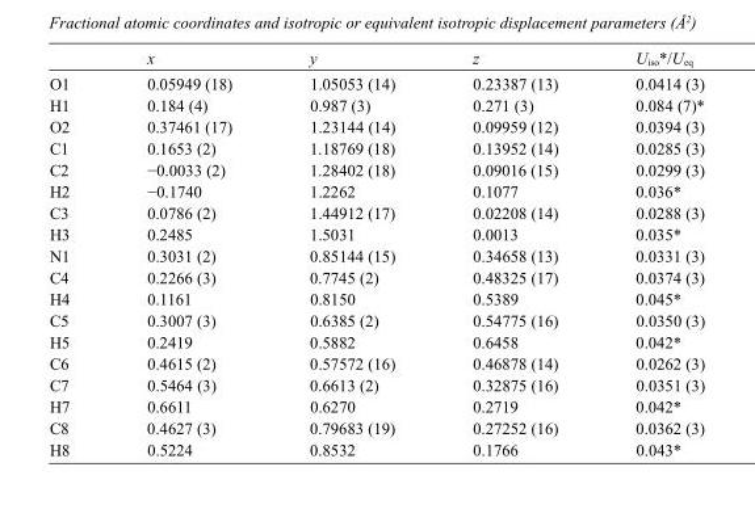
<table><thead><tr><td></td><td>x</td><td>y</td><td>z</td><td>U<sub>iso</sub>*/U<sub>eq</sub></td></tr></thead><tbody><tr><td>O1</td><td>0.05949 (18)</td><td>1.05053 (14)</td><td>0.23387 (13)</td><td>0.0414 (3)</td></tr><tr><td>H1</td><td>0.184 (4)</td><td>0.987 (3)</td><td>0.271 (3)</td><td>0.084 (7)*</td></tr><tr><td>O2</td><td>0.37461 (17)</td><td>1.23144 (14)</td><td>0.09959 (12)</td><td>0.0394 (3)</td></tr><tr><td>C1</td><td>0.1653 (2)</td><td>1.18769 (18)</td><td>0.13952 (14)</td><td>0.0285 (3)</td></tr><tr><td>C2</td><td>−0.0033 (2)</td><td>1.28402 (18)</td><td>0.09016 (15)</td><td>0.0299 (3)</td></tr><tr><td>H2</td><td>−0.1740</td><td>1.2262</td><td>0.1077</td><td>0.036*</td></tr><tr><td>C3</td><td>0.0786 (2)</td><td>1.44912 (17)</td><td>0.02208 (14)</td><td>0.0288 (3)</td></tr><tr><td>H3</td><td>0.2485</td><td>1.5031</td><td>0.0013</td><td>0.035*</td></tr><tr><td>N1</td><td>0.3031 (2)</td><td>0.85144 (15)</td><td>0.34658 (13)</td><td>0.0331 (3)</td></tr><tr><td>C4</td><td>0.2266 (3)</td><td>0.7745 (2)</td><td>0.48325 (17)</td><td>0.0374 (3)</td></tr><tr><td>H4</td><td>0.1161</td><td>0.8150</td><td>0.5389</td><td>0.045*</td></tr><tr><td>C5</td><td>0.3007 (3)</td><td>0.6385 (2)</td><td>0.54775 (16)</td><td>0.0350 (3)</td></tr><tr><td>H5</td><td>0.2419</td><td>0.5882</td><td>0.6458</td><td>0.042*</td></tr><tr><td>C6</td><td>0.4615 (2)</td><td>0.57572 (16)</td><td>0.46878 (14)</td><td>0.0262 (3)</td></tr><tr><td>C7</td><td>0.5464 (3)</td><td>0.6613 (2)</td><td>0.32875 (16)</td><td>0.0351 (3)</td></tr><tr><td>H7</td><td>0.6611</td><td>0.6270</td><td>0.2719</td><td>0.042*</td></tr><tr><td>C8</td><td>0.4627 (3)</td><td>0.79683 (19)</td><td>0.27252 (16)</td><td>0.0362 (3)</td></tr><tr><td>H8</td><td>0.5224</td><td>0.8532</td><td>0.1766</td><td>0.043*</td></tr></tbody></table>